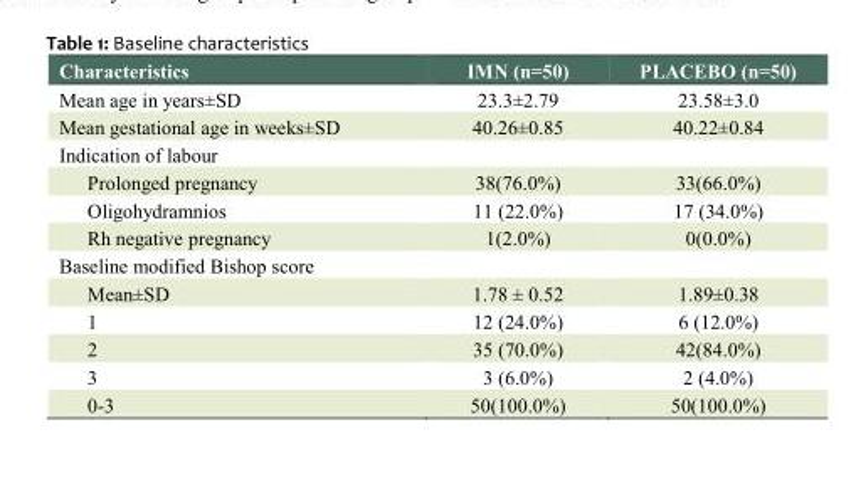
<table><thead><tr><td>Characteristics</td><td>IMN (n=50)</td><td>PLACEBO (n=50)</td></tr></thead><tbody><tr><td>Mean age in years±SD</td><td>23.3±2.79</td><td>23.58±3.0</td></tr><tr><td>Mean gestational age in weeks±SD</td><td>40.26±0.85</td><td>40.22±0.84</td></tr><tr><td colspan="3">Indication of labour</td></tr><tr><td>Prolonged pregnancy</td><td>38(76.0%)</td><td>33(66.0%)</td></tr><tr><td>Oligohydramnios</td><td>11 (22.0%)</td><td>17 (34.0%)</td></tr><tr><td>Rh negative pregnancy</td><td>1(2.0%)</td><td>0(0.0%)</td></tr><tr><td colspan="3">Baseline modified Bishop score</td></tr><tr><td>Mean±SD</td><td>1.78 ± 0.52</td><td>1.89±0.38</td></tr><tr><td>1</td><td>12 (24.0%)</td><td>6 (12.0%)</td></tr><tr><td>2</td><td>35 (70.0%)</td><td>42(84.0%)</td></tr><tr><td>3</td><td>3 (6.0%)</td><td>2 (4.0%)</td></tr><tr><td>0-3</td><td>50(100.0%)</td><td>50(100.0%)</td></tr></tbody></table>